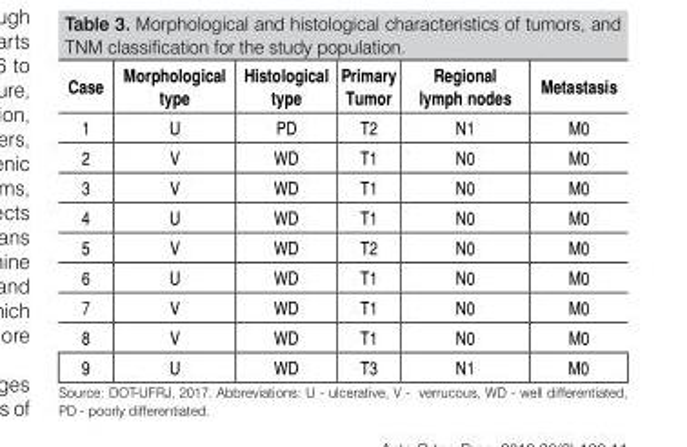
<table><thead><tr><td>Case</td><td>Morphological type</td><td>Histological type</td><td>Primary Tumor</td><td>Regional lymph nodes</td><td>Metastasis</td></tr></thead><tbody><tr><td>1</td><td>U</td><td>PD</td><td>T2</td><td>N1</td><td>M0</td></tr><tr><td>2</td><td>V</td><td>WD</td><td>T1</td><td>N0</td><td>M0</td></tr><tr><td>3</td><td>V</td><td>WD</td><td>T1</td><td>N0</td><td>M0</td></tr><tr><td>4</td><td>U</td><td>WD</td><td>T1</td><td>N0</td><td>M0</td></tr><tr><td>5</td><td>V</td><td>WD</td><td>T2</td><td>N0</td><td>M0</td></tr><tr><td>6</td><td>U</td><td>WD</td><td>T1</td><td>N0</td><td>M0</td></tr><tr><td>7</td><td>V</td><td>WD</td><td>T1</td><td>N0</td><td>M0</td></tr><tr><td>8</td><td>V</td><td>WD</td><td>T1</td><td>N0</td><td>M0</td></tr><tr><td>9</td><td>U</td><td>WD</td><td>T3</td><td>N1</td><td>M0</td></tr></tbody></table>